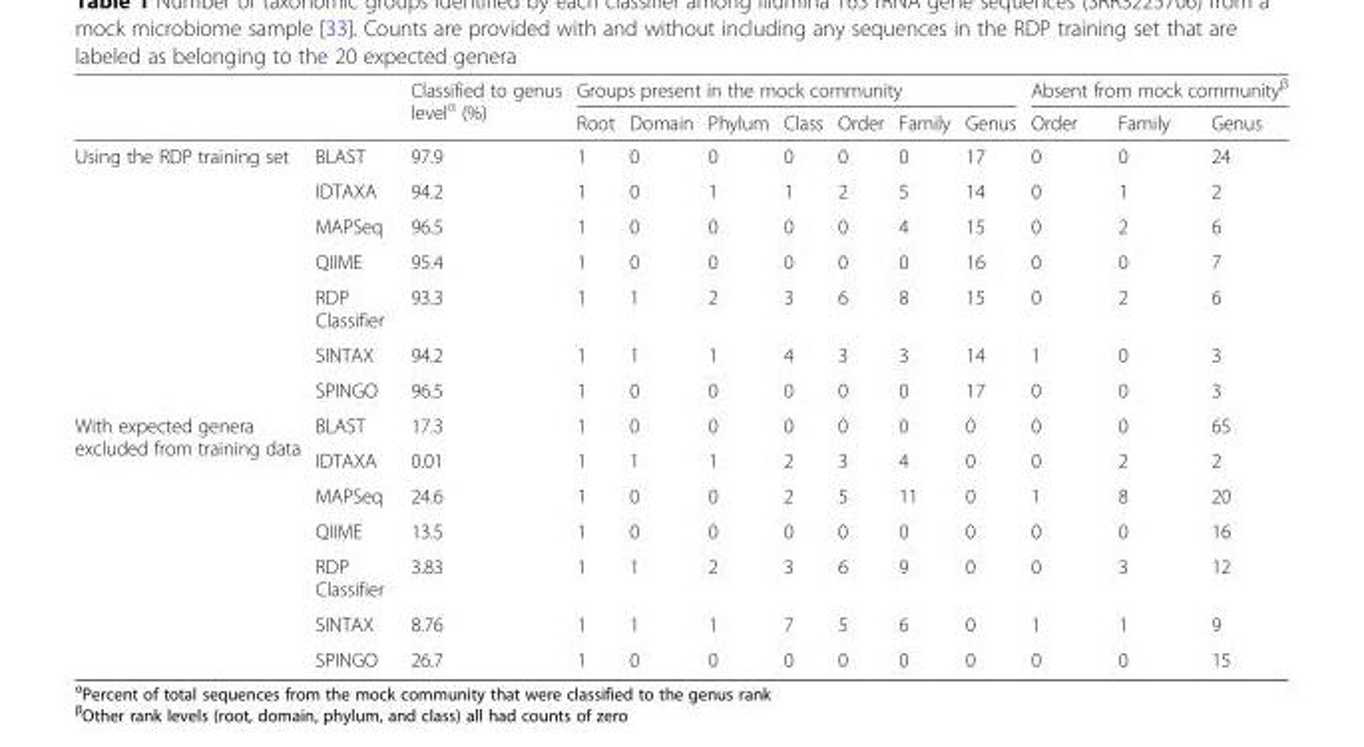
<table><thead><tr><td rowspan="2"></td><td rowspan="2"></td><td rowspan="2">Classified to genus level<sup>α</sup> (%)</td><td colspan="7">Groups present in the mock community</td><td colspan="3">Absent from mock community<sup>β</sup></td></tr><tr><td>Root</td><td>Domain</td><td>Phylum</td><td>Class</td><td>Order</td><td>Family</td><td>Genus</td><td>Order</td><td>Family</td><td>Genus</td></tr></thead><tbody><tr><td rowspan="7">Using the RDP training set</td><td>BLAST</td><td>97.9</td><td>1</td><td>0</td><td>0</td><td>0</td><td>0</td><td>0</td><td>17</td><td>0</td><td>0</td><td>24</td></tr><tr><td>IDTAXA</td><td>94.2</td><td>1</td><td>0</td><td>1</td><td>1</td><td>2</td><td>5</td><td>14</td><td>0</td><td>1</td><td>2</td></tr><tr><td>MAPSeq</td><td>96.5</td><td>1</td><td>0</td><td>0</td><td>0</td><td>0</td><td>4</td><td>15</td><td>0</td><td>2</td><td>6</td></tr><tr><td>QIIME</td><td>95.4</td><td>1</td><td>0</td><td>0</td><td>0</td><td>0</td><td>0</td><td>16</td><td>0</td><td>0</td><td>7</td></tr><tr><td>RDP Classifier</td><td>93.3</td><td>1</td><td>1</td><td>2</td><td>3</td><td>6</td><td>8</td><td>15</td><td>0</td><td>2</td><td>6</td></tr><tr><td>SINTAX</td><td>94.2</td><td>1</td><td>1</td><td>1</td><td>4</td><td>3</td><td>3</td><td>14</td><td>1</td><td>0</td><td>3</td></tr><tr><td>SPINGO</td><td>96.5</td><td>1</td><td>0</td><td>0</td><td>0</td><td>0</td><td>0</td><td>17</td><td>0</td><td>0</td><td>3</td></tr><tr><td rowspan="7">With expected genera excluded from training data</td><td>BLAST</td><td>17.3</td><td>1</td><td>0</td><td>0</td><td>0</td><td>0</td><td>0</td><td>0</td><td>0</td><td>0</td><td>65</td></tr><tr><td>IDTAXA</td><td>0.01</td><td>1</td><td>1</td><td>1</td><td>2</td><td>3</td><td>4</td><td>0</td><td>0</td><td>2</td><td>2</td></tr><tr><td>MAPSeq</td><td>24.6</td><td>1</td><td>0</td><td>0</td><td>2</td><td>5</td><td>11</td><td>0</td><td>1</td><td>8</td><td>20</td></tr><tr><td>QIIME</td><td>13.5</td><td>1</td><td>0</td><td>0</td><td>0</td><td>0</td><td>0</td><td>0</td><td>0</td><td>0</td><td>16</td></tr><tr><td>RDP Classifier</td><td>3.83</td><td>1</td><td>1</td><td>2</td><td>3</td><td>6</td><td>9</td><td>0</td><td>0</td><td>3</td><td>12</td></tr><tr><td>SINTAX</td><td>8.76</td><td>1</td><td>1</td><td>1</td><td>7</td><td>5</td><td>6</td><td>0</td><td>1</td><td>1</td><td>9</td></tr><tr><td>SPINGO</td><td>26.7</td><td>1</td><td>0</td><td>0</td><td>0</td><td>0</td><td>0</td><td>0</td><td>0</td><td>0</td><td>15</td></tr></tbody></table>